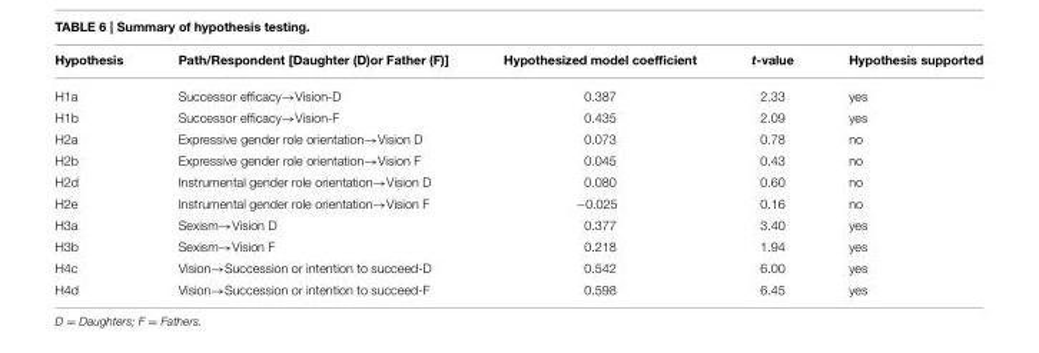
<table><thead><tr><td>Hypothesis</td><td>Path/Respondent [Daughter (D)or Father (F)]</td><td>Hypothesized model coefficient</td><td>t-value</td><td>Hypothesis supported</td></tr></thead><tbody><tr><td>H1a</td><td>Successor efficacy→Vision-D</td><td>0.387</td><td>2.33</td><td>yes</td></tr><tr><td>H1b</td><td>Successor efficacy→Vision-F</td><td>0.435</td><td>2.09</td><td>yes</td></tr><tr><td>H2a</td><td>Expressive gender role orientation→Vision D</td><td>0.073</td><td>0.78</td><td>no</td></tr><tr><td>H2b</td><td>Expressive gender role orientation→Vision F</td><td>0.045</td><td>0.43</td><td>no</td></tr><tr><td>H2d</td><td>Instrumental gender role orientation→Vision D</td><td>0.080</td><td>0.60</td><td>no</td></tr><tr><td>H2e</td><td>Instrumental gender role orientation→Vision F</td><td>−0.025</td><td>0.16</td><td>no</td></tr><tr><td>H3a</td><td>Sexism→Vision D</td><td>0.377</td><td>3.40</td><td>yes</td></tr><tr><td>H3b</td><td>Sexism→Vision F</td><td>0.218</td><td>1.94</td><td>yes</td></tr><tr><td>H4c</td><td>Vision→Succession or intention to succeed-D</td><td>0.542</td><td>6.00</td><td>yes</td></tr><tr><td>H4d</td><td>Vision→Succession or intention to succeed-F</td><td>0.598</td><td>6.45</td><td>yes</td></tr></tbody></table>